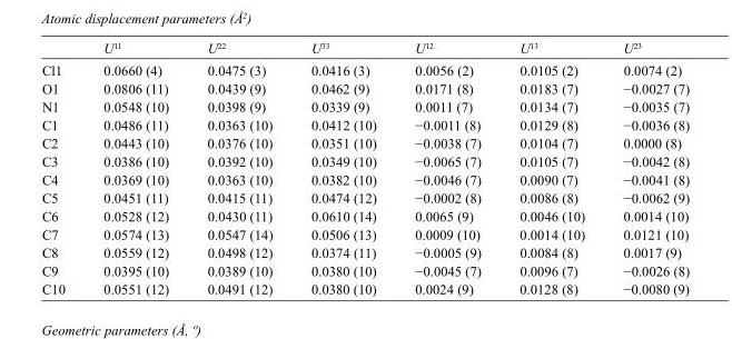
<table><thead><tr><td></td><td>U<sup>11</sup></td><td>U<sup>22</sup></td><td>U<sup>33</sup></td><td>U<sup>12</sup></td><td>U<sup>13</sup></td><td>U<sup>23</sup></td></tr></thead><tbody><tr><td>Cl1</td><td>0.0660 (4)</td><td>0.0475 (3)</td><td>0.0416 (3)</td><td>0.0056 (2)</td><td>0.0105 (2)</td><td>0.0074 (2)</td></tr><tr><td>O1</td><td>0.0806 (11)</td><td>0.0439 (9)</td><td>0.0462 (9)</td><td>0.0171 (8)</td><td>0.0183 (7)</td><td>−0.0027 (7)</td></tr><tr><td>N1</td><td>0.0548 (10)</td><td>0.0398 (9)</td><td>0.0339 (9)</td><td>0.0011 (7)</td><td>0.0134 (7)</td><td>−0.0035 (7)</td></tr><tr><td>C1</td><td>0.0486 (11)</td><td>0.0363 (10)</td><td>0.0412 (10)</td><td>−0.0011 (8)</td><td>0.0129 (8)</td><td>−0.0036 (8)</td></tr><tr><td>C2</td><td>0.0443 (10)</td><td>0.0376 (10)</td><td>0.0351 (10)</td><td>−0.0038 (7)</td><td>0.0104 (7)</td><td>0.0000 (8)</td></tr><tr><td>C3</td><td>0.0386 (10)</td><td>0.0392 (10)</td><td>0.0349 (10)</td><td>−0.0065 (7)</td><td>0.0105 (7)</td><td>−0.0042 (8)</td></tr><tr><td>C4</td><td>0.0369 (10)</td><td>0.0363 (10)</td><td>0.0382 (10)</td><td>−0.0046 (7)</td><td>0.0090 (7)</td><td>−0.0041 (8)</td></tr><tr><td>C5</td><td>0.0451 (11)</td><td>0.0415 (11)</td><td>0.0474 (12)</td><td>−0.0002 (8)</td><td>0.0086 (8)</td><td>−0.0062 (9)</td></tr><tr><td>C6</td><td>0.0528 (12)</td><td>0.0430 (11)</td><td>0.0610 (14)</td><td>0.0065 (9)</td><td>0.0046 (10)</td><td>0.0014 (10)</td></tr><tr><td>C7</td><td>0.0574 (13)</td><td>0.0547 (14)</td><td>0.0506 (13)</td><td>0.0009 (10)</td><td>0.0014 (10)</td><td>0.0121 (10)</td></tr><tr><td>C8</td><td>0.0559 (12)</td><td>0.0498 (12)</td><td>0.0374 (11)</td><td>−0.0005 (9)</td><td>0.0084 (8)</td><td>0.0017 (9)</td></tr><tr><td>C9</td><td>0.0395 (10)</td><td>0.0389 (10)</td><td>0.0380 (10)</td><td>−0.0045 (7)</td><td>0.0096 (7)</td><td>−0.0026 (8)</td></tr><tr><td>C10</td><td>0.0551 (12)</td><td>0.0491 (12)</td><td>0.0380 (10)</td><td>0.0024 (9)</td><td>0.0128 (8)</td><td>−0.0080 (9)</td></tr></tbody></table>